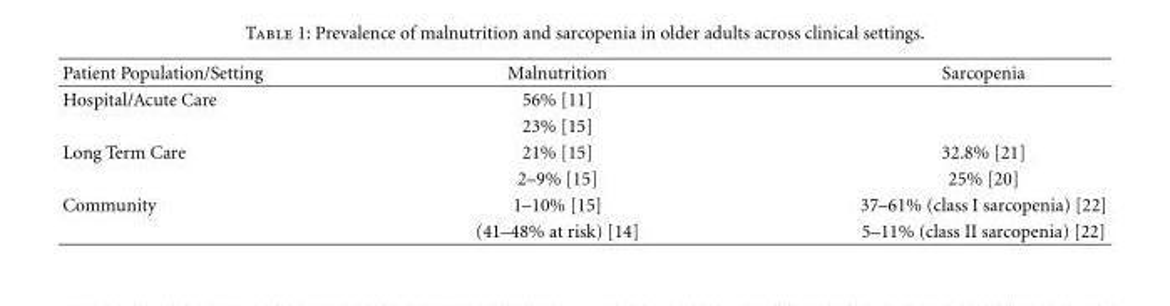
<table><thead><tr><td>Patient Population/Setting</td><td>Malnutrition</td><td>Sarcopenia</td></tr></thead><tbody><tr><td rowspan="2">Hospital/Acute Care</td><td>56% [11]</td><td></td></tr><tr><td>23% [15]</td><td></td></tr><tr><td rowspan="2">Long Term Care</td><td>21% [15]</td><td>32.8% [21]</td></tr><tr><td>2–9% [15]</td><td>25% [20]</td></tr><tr><td rowspan="2">Community</td><td>1–10% [15]</td><td>37–61% (class I sarcopenia) [22]</td></tr><tr><td>(41–48% at risk) [14]</td><td>5–11% (class II sarcopenia) [22]</td></tr></tbody></table>